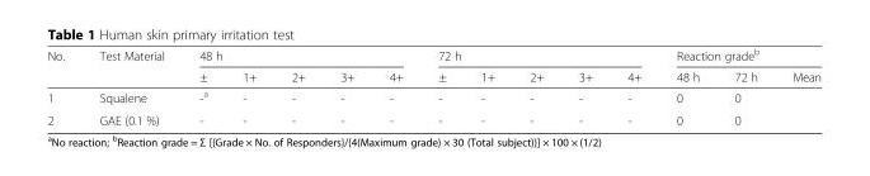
<table><thead><tr><td rowspan="2">No.</td><td rowspan="2">Test Material</td><td colspan="5">48 h</td><td colspan="5">72 h</td><td colspan="3">Reaction grade<sup>b</sup></td></tr><tr><td>±</td><td>1+</td><td>2+</td><td>3+</td><td>4+</td><td>±</td><td>1+</td><td>2+</td><td>3+</td><td>4+</td><td>48 h</td><td>72 h</td><td>Mean</td></tr></thead><tbody><tr><td>1</td><td>Squalene</td><td>-<sup>a</sup></td><td>-</td><td>-</td><td>-</td><td>-</td><td>-</td><td>-</td><td>-</td><td>-</td><td>-</td><td>0</td><td>0</td><td></td></tr><tr><td>2</td><td>GAE (0.1 %)</td><td>-</td><td>-</td><td>-</td><td>-</td><td>-</td><td>-</td><td>-</td><td>-</td><td>-</td><td>-</td><td>0</td><td>0</td><td></td></tr></tbody></table>